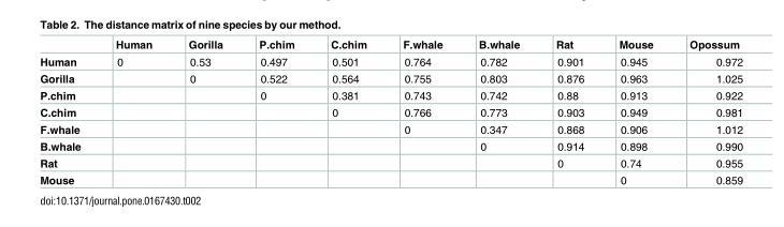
<table><thead><tr><td></td><td>Human</td><td>Gorilla</td><td>P.chim</td><td>C.chim</td><td>F.whale</td><td>B.whale</td><td>Rat</td><td>Mouse</td><td>Opossum</td></tr></thead><tbody><tr><td>Human</td><td>0</td><td>0.53</td><td>0.497</td><td>0.501</td><td>0.764</td><td>0.782</td><td>0.901</td><td>0.945</td><td>0.972</td></tr><tr><td>Gorilla</td><td></td><td>0</td><td>0.522</td><td>0.564</td><td>0.755</td><td>0.803</td><td>0.876</td><td>0.963</td><td>1.025</td></tr><tr><td>P.chim</td><td></td><td></td><td>0</td><td>0.381</td><td>0.743</td><td>0.742</td><td>0.88</td><td>0.913</td><td>0.922</td></tr><tr><td>C.chim</td><td></td><td></td><td></td><td>0</td><td>0.766</td><td>0.773</td><td>0.903</td><td>0.949</td><td>0.981</td></tr><tr><td>F.whale</td><td></td><td></td><td></td><td></td><td>0</td><td>0.347</td><td>0.868</td><td>0.906</td><td>1.012</td></tr><tr><td>B.whale</td><td></td><td></td><td></td><td></td><td></td><td>0</td><td>0.914</td><td>0.898</td><td>0.990</td></tr><tr><td>Rat</td><td></td><td></td><td></td><td></td><td></td><td></td><td>0</td><td>0.74</td><td>0.955</td></tr><tr><td>Mouse</td><td></td><td></td><td></td><td></td><td></td><td></td><td></td><td>0</td><td>0.859</td></tr></tbody></table>